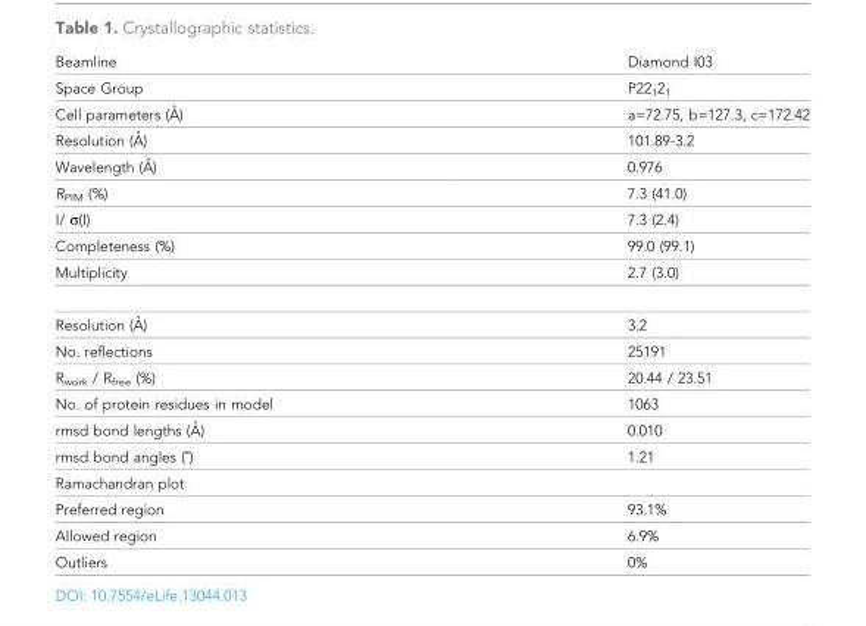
<table><tbody><tr><td>Beamline</td><td>Diamond I03</td></tr><tr><td>Space Group</td><td>P22<sub>1</sub>2<sub>1</sub></td></tr><tr><td>Cell parameters (A˚ )</td><td>a=72.75, b=127.3, c=172.42</td></tr><tr><td>Resolution (A˚ )</td><td>101.89-3.2</td></tr><tr><td>Wavelength (A˚ )</td><td>0.976</td></tr><tr><td>R<sub>PIM</sub> (%)</td><td>7.3 (41.0)</td></tr><tr><td>I/ σ(I)</td><td>7.3 (2.4)</td></tr><tr><td>Completeness (%)</td><td>99.0 (99.1)</td></tr><tr><td>Multiplicity</td><td>2.7 (3.0)</td></tr><tr><td>Resolution (A˚ )</td><td>3.2</td></tr><tr><td>No. reflections</td><td>25191</td></tr><tr><td>R<sub>work</sub> / R<sub>free</sub> (%)</td><td>20.44 / 23.51</td></tr><tr><td>No. of protein residues in model</td><td>1063</td></tr><tr><td>rmsd bond lengths (A˚ )</td><td>0.010</td></tr><tr><td>rmsd bond angles (˚)</td><td>1.21</td></tr><tr><td colspan="2">Ramachandran plot</td></tr><tr><td>Preferred region</td><td>93.1%</td></tr><tr><td>Allowed region</td><td>6.9%</td></tr><tr><td>Outliers</td><td>0%</td></tr></tbody></table>